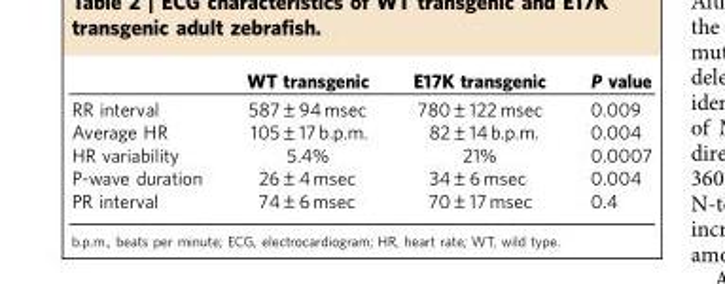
<table><thead><tr><td></td><td>WT transgenic</td><td>E17K transgenic</td><td>P value</td></tr></thead><tbody><tr><td>RR interval</td><td>587±94 msec</td><td>780±122 msec</td><td>0.009</td></tr><tr><td>Average HR</td><td>105±17 b.p.m.</td><td>82±14 b.p.m.</td><td>0.004</td></tr><tr><td>HR variability</td><td>5.4%</td><td>21%</td><td>0.0007</td></tr><tr><td>P-wave duration</td><td>26±4 msec</td><td>34±6 msec</td><td>0.004</td></tr><tr><td>PR interval</td><td>74±6 msec</td><td>70±17 msec</td><td>0.4</td></tr></tbody></table>